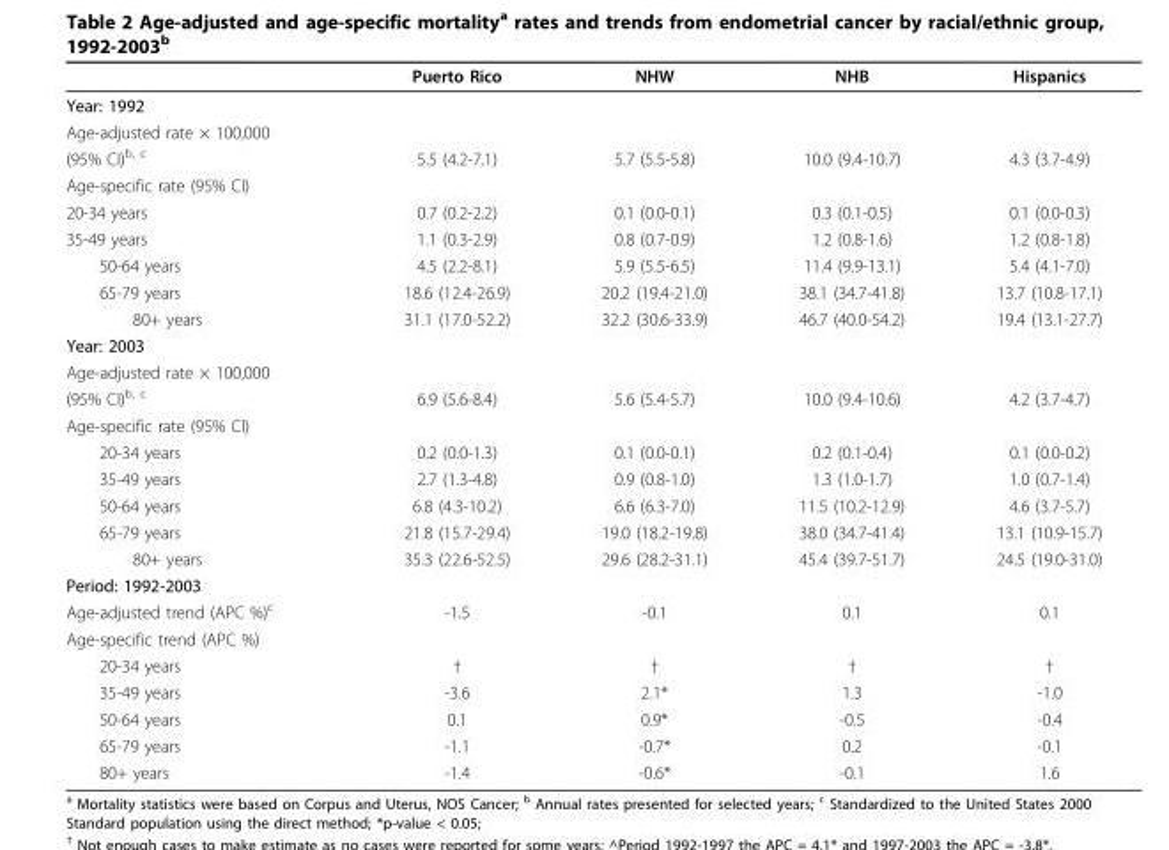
<table><thead><tr><td></td><td>Puerto Rico</td><td>NHW</td><td>NHB</td><td>Hispanics</td></tr></thead><tbody><tr><td colspan="5">Year: 1992</td></tr><tr><td colspan="5">Age-adjusted rate × 100,000</td></tr><tr><td>(95% CI)<sup>b, c</sup></td><td>5.5 (4.2-7.1)</td><td>5.7 (5.5-5.8)</td><td>10.0 (9.4-10.7)</td><td>4.3 (3.7-4.9)</td></tr><tr><td colspan="5">Age-specific rate (95% CI)</td></tr><tr><td>20-34 years</td><td>0.7 (0.2-2.2)</td><td>0.1 (0.0-0.1)</td><td>0.3 (0.1-0.5)</td><td>0.1 (0.0-0.3)</td></tr><tr><td>35-49 years</td><td>1.1 (0.3-2.9)</td><td>0.8 (0.7-0.9)</td><td>1.2 (0.8-1.6)</td><td>1.2 (0.8-1.8)</td></tr><tr><td>50-64 years</td><td>4.5 (2.2-8.1)</td><td>5.9 (5.5-6.5)</td><td>11.4 (9.9-13.1)</td><td>5.4 (4.1-7.0)</td></tr><tr><td>65-79 years</td><td>18.6 (12.4-26.9)</td><td>20.2 (19.4-21.0)</td><td>38.1 (34.7-41.8)</td><td>13.7 (10.8-17.1)</td></tr><tr><td>80+ years</td><td>31.1 (17.0-52.2)</td><td>32.2 (30.6-33.9)</td><td>46.7 (40.0-54.2)</td><td>19.4 (13.1-27.7)</td></tr><tr><td colspan="5">Year: 2003</td></tr><tr><td colspan="5">Age-adjusted rate × 100,000</td></tr><tr><td>(95% CI)<sup>b, c</sup></td><td>6.9 (5.6-8.4)</td><td>5.6 (5.4-5.7)</td><td>10.0 (9.4-10.6)</td><td>4.2 (3.7-4.7)</td></tr><tr><td colspan="5">Age-specific rate (95% CI)</td></tr><tr><td>20-34 years</td><td>0.2 (0.0-1.3)</td><td>0.1 (0.0-0.1)</td><td>0.2 (0.1-0.4)</td><td>0.1 (0.0-0.2)</td></tr><tr><td>35-49 years</td><td>2.7 (1.3-4.8)</td><td>0.9 (0.8-1.0)</td><td>1.3 (1.0-1.7)</td><td>1.0 (0.7-1.4)</td></tr><tr><td>50-64 years</td><td>6.8 (4.3-10.2)</td><td>6.6 (6.3-7.0)</td><td>11.5 (10.2-12.9)</td><td>4.6 (3.7-5.7)</td></tr><tr><td>65-79 years</td><td>21.8 (15.7-29.4)</td><td>19.0 (18.2-19.8)</td><td>38.0 (34.7-41.4)</td><td>13.1 (10.9-15.7)</td></tr><tr><td>80+ years</td><td>35.3 (22.6-52.5)</td><td>29.6 (28.2-31.1)</td><td>45.4 (39.7-51.7)</td><td>24.5 (19.0-31.0)</td></tr><tr><td colspan="5">Period: 1992-2003</td></tr><tr><td>Age-adjusted trend (APC %)<sup>c</sup></td><td>-1.5</td><td>-0.1</td><td>0.1</td><td>0.1</td></tr><tr><td colspan="5">Age-specific trend (APC %)</td></tr><tr><td>20-34 years</td><td>†</td><td>†</td><td>†</td><td>†</td></tr><tr><td>35-49 years</td><td>-3.6</td><td>2.1*</td><td>1.3</td><td>-1.0</td></tr><tr><td>50-64 years</td><td>0.1</td><td>0.9*</td><td>-0.5</td><td>-0.4</td></tr><tr><td>65-79 years</td><td>-1.1</td><td>-0.7*</td><td>0.2</td><td>-0.1</td></tr><tr><td>80+ years</td><td>-1.4</td><td>-0.6*</td><td>-0.1</td><td>1.6</td></tr></tbody></table>